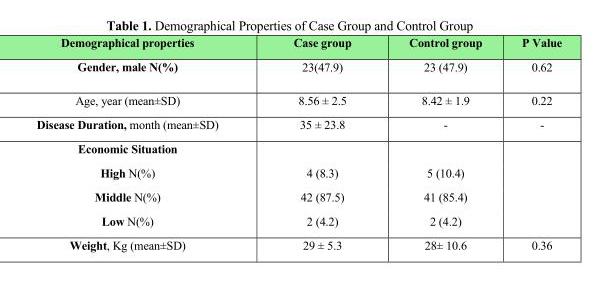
<table><thead><tr><td>Demographical properties</td><td>Case group</td><td>Control group</td><td>P Value</td></tr></thead><tbody><tr><td>Gender, male N(%)</td><td>23(47.9)</td><td>23 (47.9)</td><td>0.62</td></tr><tr><td>Age, year (mean±SD)</td><td>8.56 ± 2.5</td><td>8.42 ± 1.9</td><td>0.22</td></tr><tr><td>Disease Duration, month (mean±SD)</td><td>35 ± 23.8</td><td>-</td><td>-</td></tr><tr><td colspan="4">Economic Situation</td></tr><tr><td>High N(%)</td><td>4 (8.3)</td><td>5 (10.4)</td><td></td></tr><tr><td>Middle N(%)</td><td>42 (87.5)</td><td>41 (85.4)</td><td></td></tr><tr><td>Low N(%)</td><td>2 (4.2)</td><td>2 (4.2)</td><td></td></tr><tr><td>Weight, Kg (mean±SD)</td><td>29 ± 5.3</td><td>28± 10.6</td><td>0.36</td></tr></tbody></table>